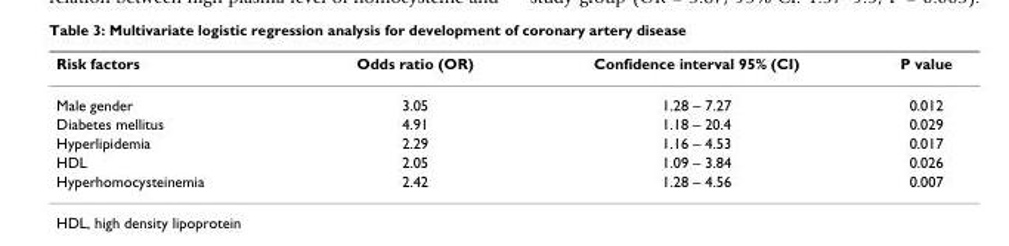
<table><thead><tr><td>Risk factors</td><td>Odds ratio (OR)</td><td>Confidence interval 95% (CI)</td><td>P value</td></tr></thead><tbody><tr><td>Male gender</td><td>3.05</td><td>1.28 – 7.27</td><td>0.012</td></tr><tr><td>Diabetes mellitus</td><td>4.91</td><td>1.18 – 20.4</td><td>0.029</td></tr><tr><td>Hyperlipidemia</td><td>2.29</td><td>1.16 – 4.53</td><td>0.017</td></tr><tr><td>HDL</td><td>2.05</td><td>1.09 – 3.84</td><td>0.026</td></tr><tr><td>Hyperhomocysteinemia</td><td>2.42</td><td>1.28 – 4.56</td><td>0.007</td></tr></tbody></table>